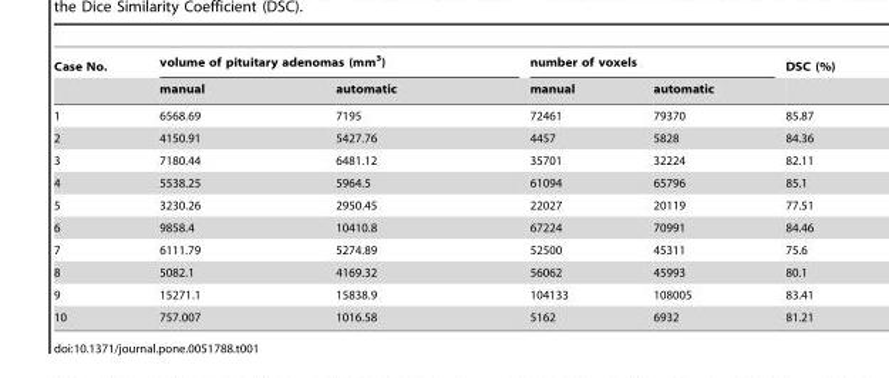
<table><thead><tr><td rowspan="2">Case No.</td><td colspan="2">volume of pituitary adenomas (mm<sup>3</sup>)</td><td colspan="2">number of voxels</td><td rowspan="2">DSC (%)</td></tr><tr><td>manual</td><td>automatic</td><td>manual</td><td>automatic</td></tr></thead><tbody><tr><td>1</td><td>6568.69</td><td>7195</td><td>72461</td><td>79370</td><td>85.87</td></tr><tr><td>2</td><td>4150.91</td><td>5427.76</td><td>4457</td><td>5828</td><td>84.36</td></tr><tr><td>3</td><td>7180.44</td><td>6481.12</td><td>35701</td><td>32224</td><td>82.11</td></tr><tr><td>4</td><td>5538.25</td><td>5964.5</td><td>61094</td><td>65796</td><td>85.1</td></tr><tr><td>5</td><td>3230.26</td><td>2950.45</td><td>22027</td><td>20119</td><td>77.51</td></tr><tr><td>6</td><td>9858.4</td><td>10410.8</td><td>67224</td><td>70991</td><td>84.46</td></tr><tr><td>7</td><td>6111.79</td><td>5274.89</td><td>52500</td><td>45311</td><td>75.6</td></tr><tr><td>8</td><td>5082.1</td><td>4169.32</td><td>56062</td><td>45993</td><td>80.1</td></tr><tr><td>9</td><td>15271.1</td><td>15838.9</td><td>104133</td><td>108005</td><td>83.41</td></tr><tr><td>10</td><td>757.007</td><td>1016.58</td><td>5162</td><td>6932</td><td>81.21</td></tr></tbody></table>